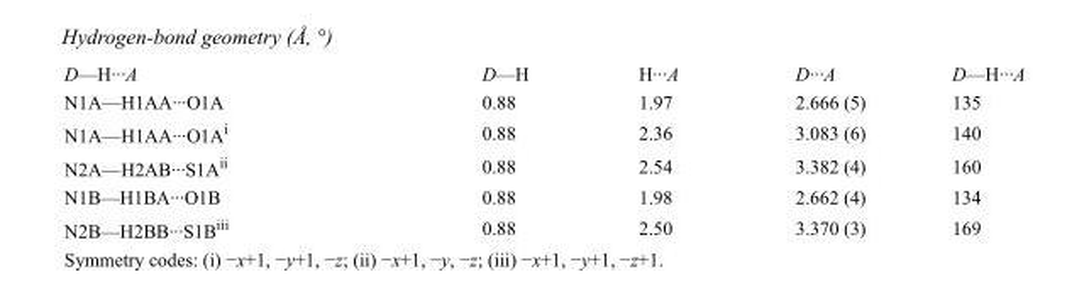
<table><tbody><tr><td>D—H···A</td><td>D—H</td><td>H···A</td><td>D···A</td><td>D—H···A</td></tr><tr><td>N1A—H1AA···O1A</td><td>0.88</td><td>1.97</td><td>2.666 (5)</td><td>135</td></tr><tr><td>N1A—H1AA···O1A<sup>i</sup></td><td>0.88</td><td>2.36</td><td>3.083 (6)</td><td>140</td></tr><tr><td>N2A—H2AB···S1A<sup>ii</sup></td><td>0.88</td><td>2.54</td><td>3.382 (4)</td><td>160</td></tr><tr><td>N1B—H1BA···O1B</td><td>0.88</td><td>1.98</td><td>2.662 (4)</td><td>134</td></tr><tr><td>N2B—H2BB···S1B<sup>iii</sup></td><td>0.88</td><td>2.50</td><td>3.370 (3)</td><td>169</td></tr></tbody></table>